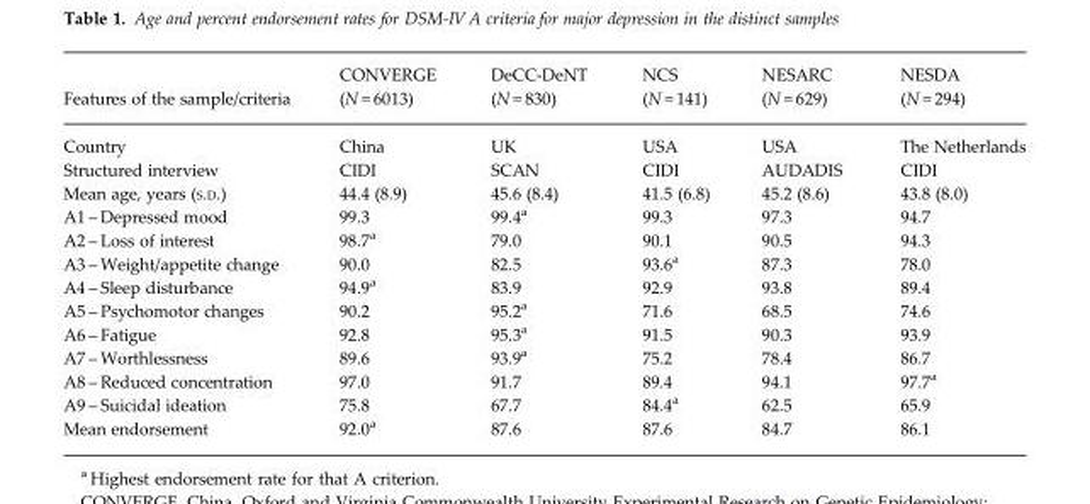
<table><thead><tr><td>Features of the sample/criteria</td><td>CONVERGE (N = 6013)</td><td>DeCC-DeNT (N = 830)</td><td>NCS (N = 141)</td><td>NESARC (N = 629)</td><td>NESDA (N = 294)</td></tr></thead><tbody><tr><td>Country</td><td>China</td><td>UK</td><td>USA</td><td>USA</td><td>The Netherlands</td></tr><tr><td>Structured interview</td><td>CIDI</td><td>SCAN</td><td>CIDI</td><td>AUDADIS</td><td>CIDI</td></tr><tr><td>Mean age, years (S.D.)</td><td>44.4 (8.9)</td><td>45.6 (8.4)</td><td>41.5 (6.8)</td><td>45.2 (8.6)</td><td>43.8 (8.0)</td></tr><tr><td>A1 – Depressed mood</td><td>99.3</td><td>99.4<sup>a</sup></td><td>99.3</td><td>97.3</td><td>94.7</td></tr><tr><td>A2 – Loss of interest</td><td>98.7<sup>a</sup></td><td>79.0</td><td>90.1</td><td>90.5</td><td>94.3</td></tr><tr><td>A3 – Weight/appetite change</td><td>90.0</td><td>82.5</td><td>93.6<sup>a</sup></td><td>87.3</td><td>78.0</td></tr><tr><td>A4 – Sleep disturbance</td><td>94.9<sup>a</sup></td><td>83.9</td><td>92.9</td><td>93.8</td><td>89.4</td></tr><tr><td>A5 – Psychomotor changes</td><td>90.2</td><td>95.2<sup>a</sup></td><td>71.6</td><td>68.5</td><td>74.6</td></tr><tr><td>A6 – Fatigue</td><td>92.8</td><td>95.3<sup>a</sup></td><td>91.5</td><td>90.3</td><td>93.9</td></tr><tr><td>A7 – Worthlessness</td><td>89.6</td><td>93.9<sup>a</sup></td><td>75.2</td><td>78.4</td><td>86.7</td></tr><tr><td>A8 – Reduced concentration</td><td>97.0</td><td>91.7</td><td>89.4</td><td>94.1</td><td>97.7<sup>a</sup></td></tr><tr><td>A9 – Suicidal ideation</td><td>75.8</td><td>67.7</td><td>84.4<sup>a</sup></td><td>62.5</td><td>65.9</td></tr><tr><td>Mean endorsement</td><td>92.0<sup>a</sup></td><td>87.6</td><td>87.6</td><td>84.7</td><td>86.1</td></tr></tbody></table>